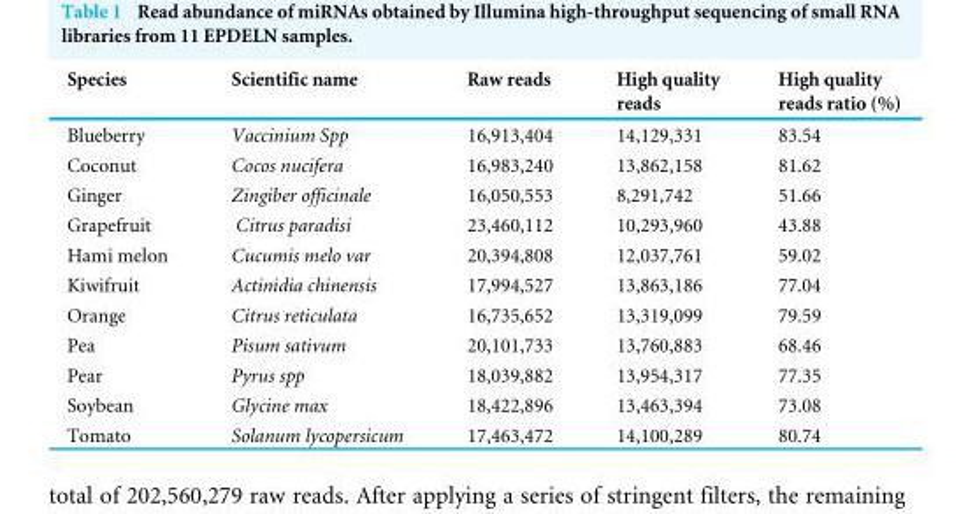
<table><thead><tr><td>Species</td><td>Scientific name</td><td>Raw reads</td><td>High quality reads</td><td>High quality reads ratio (%)</td></tr></thead><tbody><tr><td>Blueberry</td><td>Vaccinium Spp</td><td>16,913,404</td><td>14,129,331</td><td>83.54</td></tr><tr><td>Coconut</td><td>Cocos nucifera</td><td>16,983,240</td><td>13,862,158</td><td>81.62</td></tr><tr><td>Ginger</td><td>Zingiber officinale</td><td>16,050,553</td><td>8,291,742</td><td>51.66</td></tr><tr><td>Grapefruit</td><td>Citrus paradisi</td><td>23,460,112</td><td>10,293,960</td><td>43.88</td></tr><tr><td>Hami melon</td><td>Cucumis melo var</td><td>20,394,808</td><td>12,037,761</td><td>59.02</td></tr><tr><td>Kiwifruit</td><td>Actinidia chinensis</td><td>17,994,527</td><td>13,863,186</td><td>77.04</td></tr><tr><td>Orange</td><td>Citrus reticulata</td><td>16,735,652</td><td>13,319,099</td><td>79.59</td></tr><tr><td>Pea</td><td>Pisum sativum</td><td>20,101,733</td><td>13,760,883</td><td>68.46</td></tr><tr><td>Pear</td><td>Pyrus spp</td><td>18,039,882</td><td>13,954,317</td><td>77.35</td></tr><tr><td>Soybean</td><td>Glycine max</td><td>18,422,896</td><td>13,463,394</td><td>73.08</td></tr><tr><td>Tomato</td><td>Solanum lycopersicum</td><td>17,463,472</td><td>14,100,289</td><td>80.74</td></tr></tbody></table>